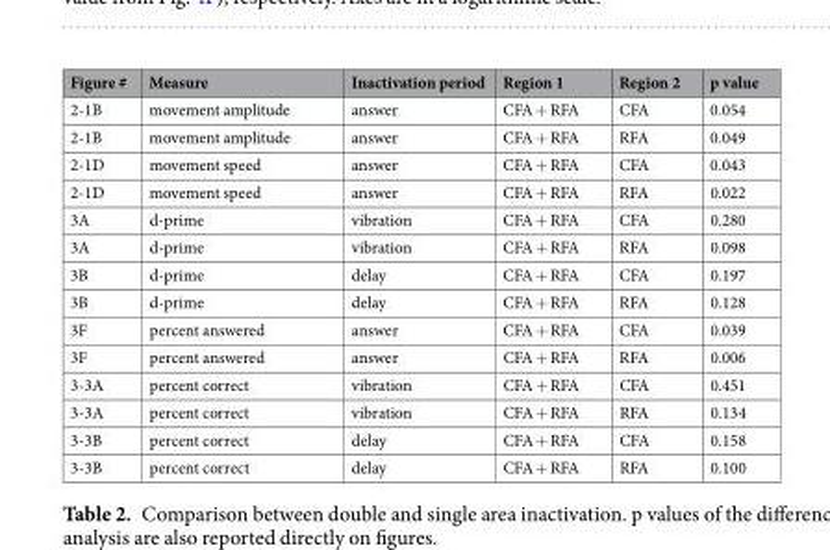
<table><thead><tr><td>Figure #</td><td>Measure</td><td>Inactivation period</td><td>Region 1</td><td>Region 2</td><td>p value</td></tr></thead><tbody><tr><td>2-1B</td><td>movement amplitude</td><td>answer</td><td>CFA + RFA</td><td>CFA</td><td>0.054</td></tr><tr><td>2-1B</td><td>movement amplitude</td><td>answer</td><td>CFA + RFA</td><td>RFA</td><td>0.049</td></tr><tr><td>2-1D</td><td>movement speed</td><td>answer</td><td>CFA + RFA</td><td>CFA</td><td>0.043</td></tr><tr><td>2-1D</td><td>movement speed</td><td>answer</td><td>CFA + RFA</td><td>RFA</td><td>0.022</td></tr><tr><td>3A</td><td>d-prime</td><td>vibration</td><td>CFA + RFA</td><td>CFA</td><td>0.280</td></tr><tr><td>3A</td><td>d-prime</td><td>vibration</td><td>CFA + RFA</td><td>RFA</td><td>0.098</td></tr><tr><td>3B</td><td>d-prime</td><td>delay</td><td>CFA + RFA</td><td>CFA</td><td>0.197</td></tr><tr><td>3B</td><td>d-prime</td><td>delay</td><td>CFA + RFA</td><td>RFA</td><td>0.128</td></tr><tr><td>3F</td><td>percent answered</td><td>answer</td><td>CFA + RFA</td><td>CFA</td><td>0.039</td></tr><tr><td>3F</td><td>percent answered</td><td>answer</td><td>CFA + RFA</td><td>RFA</td><td>0.006</td></tr><tr><td>3-3A</td><td>percent correct</td><td>vibration</td><td>CFA + RFA</td><td>CFA</td><td>0.451</td></tr><tr><td>3-3A</td><td>percent correct</td><td>vibration</td><td>CFA + RFA</td><td>RFA</td><td>0.134</td></tr><tr><td>3-3B</td><td>percent correct</td><td>delay</td><td>CFA + RFA</td><td>CFA</td><td>0.158</td></tr><tr><td>3-3B</td><td>percent correct</td><td>delay</td><td>CFA + RFA</td><td>RFA</td><td>0.100</td></tr></tbody></table>